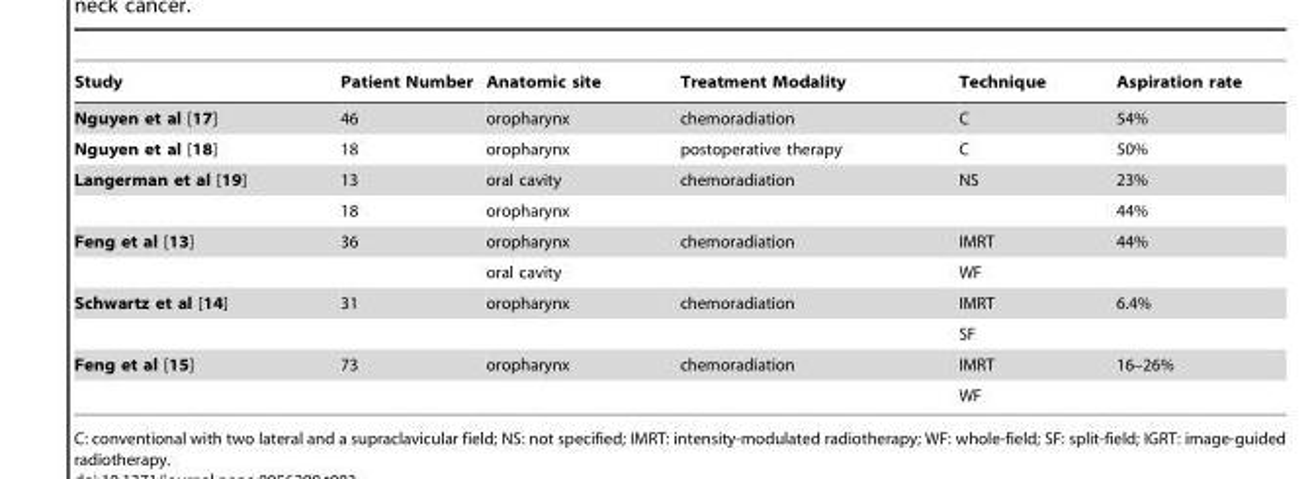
<table><thead><tr><td>Study</td><td>Patient Number</td><td>Anatomic site</td><td>Treatment Modality</td><td>Technique</td><td>Aspiration rate</td></tr></thead><tbody><tr><td>Nguyen et al [17]</td><td>46</td><td>oropharynx</td><td>chemoradiation</td><td>C</td><td>54%</td></tr><tr><td>Nguyen et al [18]</td><td>18</td><td>oropharynx</td><td>postoperative therapy</td><td>C</td><td>50%</td></tr><tr><td rowspan="2">Langerman et al [19]</td><td>13</td><td>oral cavity</td><td>chemoradiation</td><td>NS</td><td>23%</td></tr><tr><td>18</td><td>oropharynx</td><td></td><td></td><td>44%</td></tr><tr><td rowspan="2">Feng et al [13]</td><td>36</td><td>oropharynx</td><td>chemoradiation</td><td>IMRT</td><td>44%</td></tr><tr><td></td><td>oral cavity</td><td></td><td>WF</td><td></td></tr><tr><td rowspan="2">Schwartz et al [14]</td><td>31</td><td>oropharynx</td><td>chemoradiation</td><td>IMRT</td><td>6.4%</td></tr><tr><td></td><td></td><td></td><td>SF</td><td></td></tr><tr><td rowspan="2">Feng et al [15]</td><td>73</td><td>oropharynx</td><td>chemoradiation</td><td>IMRT</td><td>16–26%</td></tr><tr><td></td><td></td><td></td><td>WF</td><td></td></tr></tbody></table>